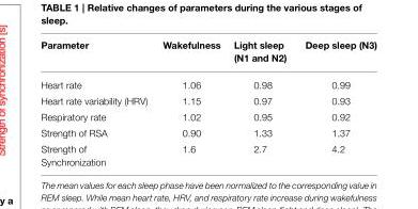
<table><thead><tr><td>Parameter</td><td>Wakefulness</td><td>Light sleep (N1 and N2)</td><td>Deep sleep (N3)</td></tr></thead><tbody><tr><td>Heart rate</td><td>1.06</td><td>0.98</td><td>0.99</td></tr><tr><td>Heart rate variability (HRV)</td><td>1.15</td><td>0.97</td><td>0.93</td></tr><tr><td>Respiratory rate</td><td>1.02</td><td>0.95</td><td>0.92</td></tr><tr><td>Strength of RSA</td><td>0.90</td><td>1.33</td><td>1.37</td></tr><tr><td>Strength of Synchronization</td><td>1.6</td><td>2.7</td><td>4.2</td></tr></tbody></table>